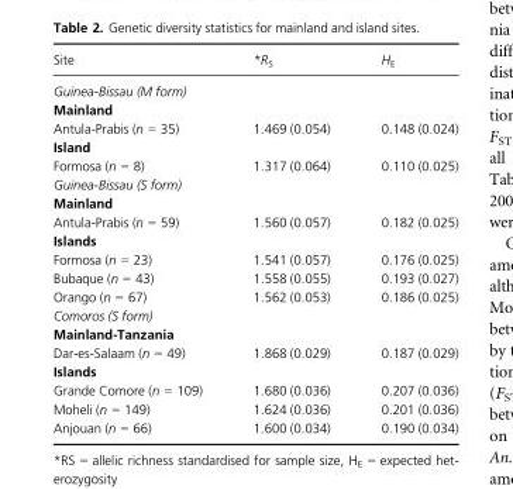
<table><thead><tr><td>Site</td><td>*R<sub>S</sub></td><td>H<sub>E</sub></td></tr></thead><tbody><tr><td colspan="3">Guinea-Bissau (M form)</td></tr><tr><td colspan="3">Mainland</td></tr><tr><td>Antula-Prabis (n = 35)</td><td>1.469 (0.054)</td><td>0.148 (0.024)</td></tr><tr><td colspan="3">Island</td></tr><tr><td>Formosa (n = 8)</td><td>1.317 (0.064)</td><td>0.110 (0.025)</td></tr><tr><td colspan="3">Guinea-Bissau (S form)</td></tr><tr><td colspan="3">Mainland</td></tr><tr><td>Antula-Prabis (n = 59)</td><td>1.560 (0.057)</td><td>0.182 (0.025)</td></tr><tr><td colspan="3">Islands</td></tr><tr><td>Formosa (n = 23)</td><td>1.541 (0.057)</td><td>0.176 (0.025)</td></tr><tr><td>Bubaque (n = 43)</td><td>1.558 (0.055)</td><td>0.193 (0.027)</td></tr><tr><td>Orango (n = 67)</td><td>1.562 (0.053)</td><td>0.186 (0.025)</td></tr><tr><td colspan="3">Comoros (S form)</td></tr><tr><td colspan="3">Mainland-Tanzania</td></tr><tr><td>Dar-es-Salaam (n = 49)</td><td>1.868 (0.029)</td><td>0.187 (0.029)</td></tr><tr><td colspan="3">Islands</td></tr><tr><td>Grande Comore (n = 109)</td><td>1.680 (0.036)</td><td>0.207 (0.036)</td></tr><tr><td>Moheli (n = 149)</td><td>1.624 (0.036)</td><td>0.201 (0.036)</td></tr><tr><td>Anjouan (n = 66)</td><td>1.600 (0.034)</td><td>0.190 (0.034)</td></tr></tbody></table>